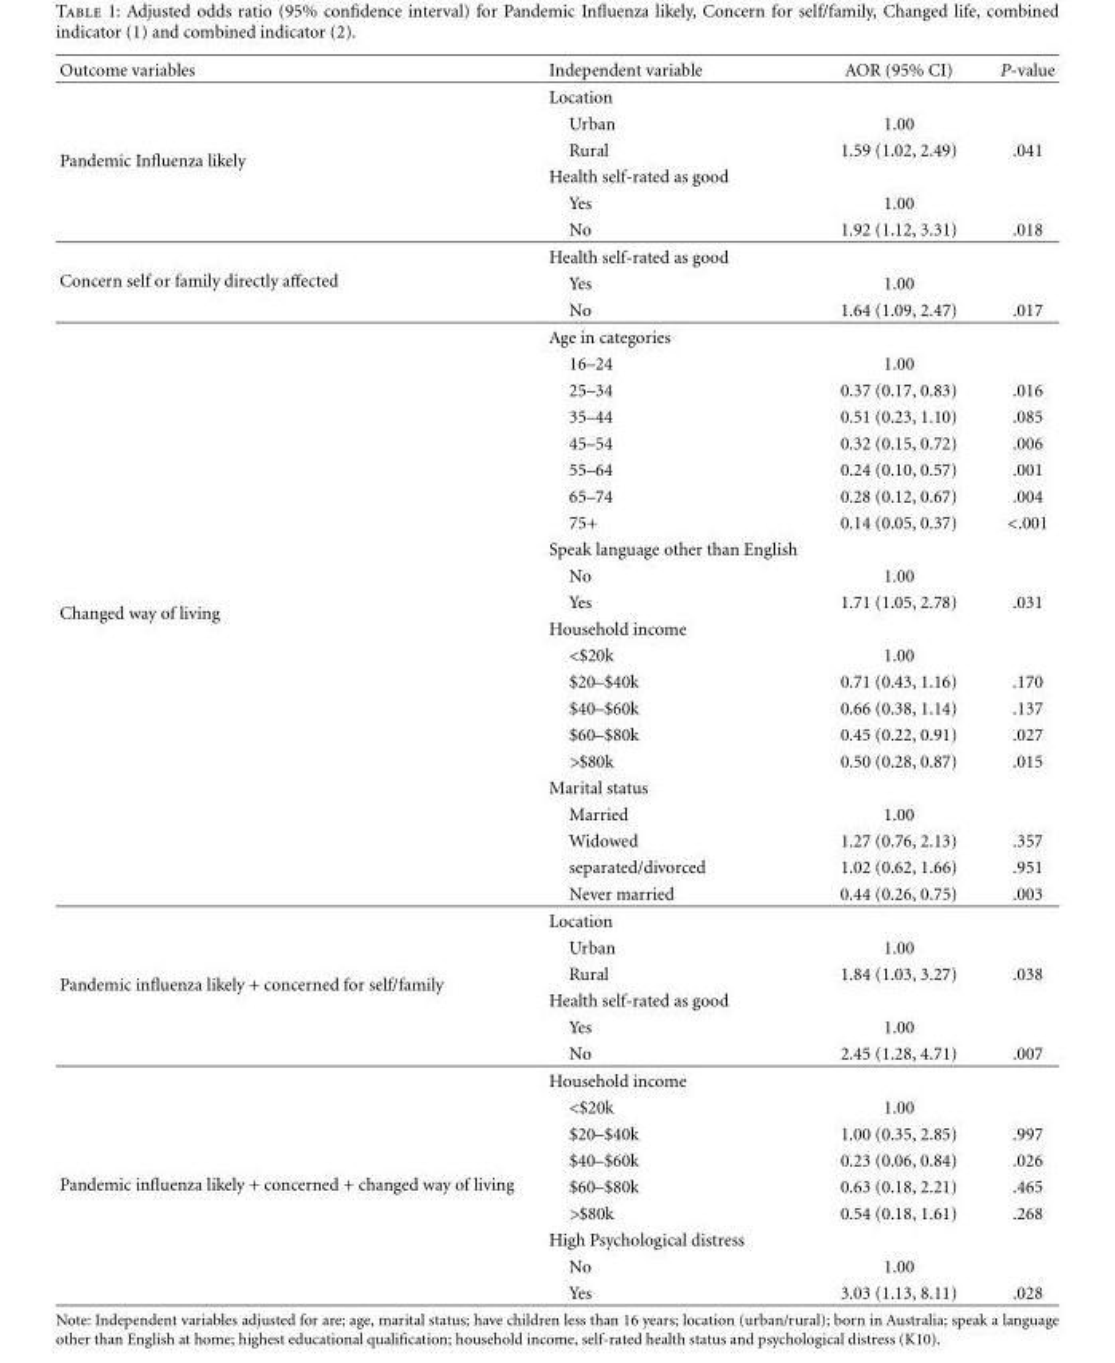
<table><thead><tr><td>Outcome variables</td><td>Independent variable</td><td>AOR (95% CI)</td><td>P-value</td></tr></thead><tbody><tr><td rowspan="6">Pandemic Influenza likely</td><td>Location</td><td></td><td></td></tr><tr><td>Urban</td><td>1.00</td><td></td></tr><tr><td>Rural</td><td>1.59 (1.02, 2.49)</td><td>.041</td></tr><tr><td>Health self-rated as good</td><td></td><td></td></tr><tr><td>Yes</td><td>1.00</td><td></td></tr><tr><td>No</td><td>1.92 (1.12, 3.31)</td><td>.018</td></tr><tr><td rowspan="3">Concern self or family directly affected</td><td>Health self-rated as good</td><td></td><td></td></tr><tr><td>Yes</td><td>1.00</td><td></td></tr><tr><td>No</td><td>1.64 (1.09, 2.47)</td><td>.017</td></tr><tr><td rowspan="22">Changed way of living</td><td>Age in categories</td><td></td><td></td></tr><tr><td>16–24</td><td>1.00</td><td></td></tr><tr><td>25–34</td><td>0.37 (0.17, 0.83)</td><td>.016</td></tr><tr><td>35–44</td><td>0.51 (0.23, 1.10)</td><td>.085</td></tr><tr><td>45–54</td><td>0.32 (0.15, 0.72)</td><td>.006</td></tr><tr><td>55–64</td><td>0.24 (0.10, 0.57)</td><td>.001</td></tr><tr><td>65–74</td><td>0.28 (0.12, 0.67)</td><td>.004</td></tr><tr><td>75+</td><td>0.14 (0.05, 0.37)</td><td>&lt;.001</td></tr><tr><td>Speak language other than English</td><td></td><td></td></tr><tr><td>No</td><td>1.00</td><td></td></tr><tr><td>Yes</td><td>1.71 (1.05, 2.78)</td><td>.031</td></tr><tr><td>Household income</td><td></td><td></td></tr><tr><td>&lt;$20k</td><td>1.00</td><td></td></tr><tr><td>$20–$40k</td><td>0.71 (0.43, 1.16)</td><td>.170</td></tr><tr><td>$40–$60k</td><td>0.66 (0.38, 1.14)</td><td>.137</td></tr><tr><td>$60–$80k</td><td>0.45 (0.22, 0.91)</td><td>.027</td></tr><tr><td>&gt;$80k</td><td>0.50 (0.28, 0.87)</td><td>.015</td></tr><tr><td>Marital status</td><td></td><td></td></tr><tr><td>Married</td><td>1.00</td><td></td></tr><tr><td>Widowed</td><td>1.27 (0.76, 2.13)</td><td>.357</td></tr><tr><td>separated/divorced</td><td>1.02 (0.62, 1.66)</td><td>.951</td></tr><tr><td>Never married</td><td>0.44 (0.26, 0.75)</td><td>.003</td></tr><tr><td rowspan="6">Pandemic influenza likely + concerned for self/family</td><td>Location</td><td></td><td></td></tr><tr><td>Urban</td><td>1.00</td><td></td></tr><tr><td>Rural</td><td>1.84 (1.03, 3.27)</td><td>.038</td></tr><tr><td>Health self-rated as good</td><td></td><td></td></tr><tr><td>Yes</td><td>1.00</td><td></td></tr><tr><td>No</td><td>2.45 (1.28, 4.71)</td><td>.007</td></tr><tr><td rowspan="9">Pandemic influenza likely + concerned + changed way of living</td><td>Household income</td><td></td><td></td></tr><tr><td>&lt;$20k</td><td>1.00</td><td></td></tr><tr><td>$20–$40k</td><td>1.00 (0.35, 2.85)</td><td>.997</td></tr><tr><td>$40–$60k</td><td>0.23 (0.06, 0.84)</td><td>.026</td></tr><tr><td>$60–$80k</td><td>0.63 (0.18, 2.21)</td><td>.465</td></tr><tr><td>&gt;$80k</td><td>0.54 (0.18, 1.61)</td><td>.268</td></tr><tr><td>High Psychological distress</td><td></td><td></td></tr><tr><td>No</td><td>1.00</td><td></td></tr><tr><td>Yes</td><td>3.03 (1.13, 8.11)</td><td>.028</td></tr></tbody></table>